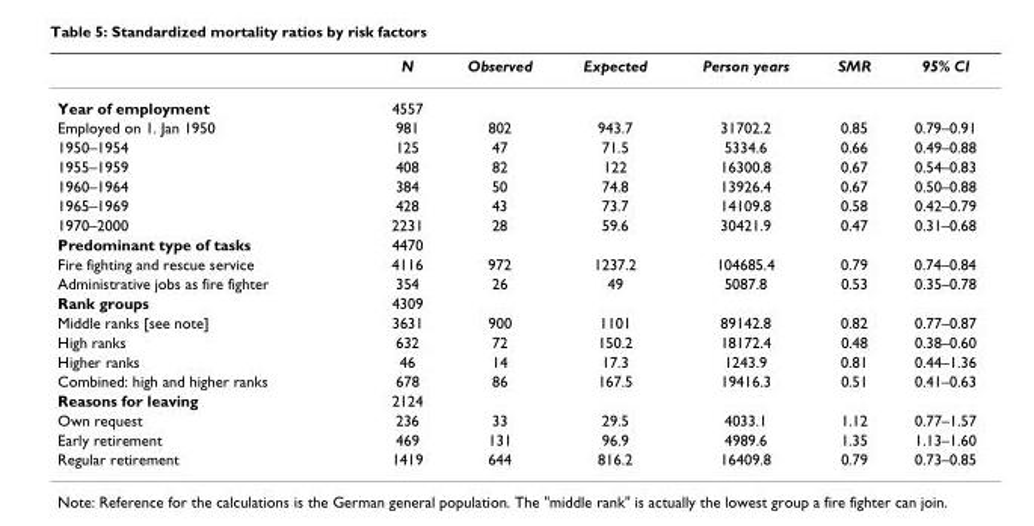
<table><thead><tr><td></td><td>N</td><td>Observed</td><td>Expected</td><td>Person years</td><td>SMR</td><td>95% CI</td></tr></thead><tbody><tr><td>Year of employment</td><td>4557</td><td></td><td></td><td></td><td></td><td></td></tr><tr><td>Employed on 1. Jan 1950</td><td>981</td><td>802</td><td>943.7</td><td>31702.2</td><td>0.85</td><td>0.79–0.91</td></tr><tr><td>1950–1954</td><td>125</td><td>47</td><td>71.5</td><td>5334.6</td><td>0.66</td><td>0.49–0.88</td></tr><tr><td>1955–1959</td><td>408</td><td>82</td><td>122</td><td>16300.8</td><td>0.67</td><td>0.54–0.83</td></tr><tr><td>1960–1964</td><td>384</td><td>50</td><td>74.8</td><td>13926.4</td><td>0.67</td><td>0.50–0.88</td></tr><tr><td>1965–1969</td><td>428</td><td>43</td><td>73.7</td><td>14109.8</td><td>0.58</td><td>0.42–0.79</td></tr><tr><td>1970–2000</td><td>2231</td><td>28</td><td>59.6</td><td>30421.9</td><td>0.47</td><td>0.31–0.68</td></tr><tr><td>Predominant type of tasks</td><td>4470</td><td></td><td></td><td></td><td></td><td></td></tr><tr><td>Fire fighting and rescue service</td><td>4116</td><td>972</td><td>1237.2</td><td>104685.4</td><td>0.79</td><td>0.74–0.84</td></tr><tr><td>Administrative jobs as fire fighter</td><td>354</td><td>26</td><td>49</td><td>5087.8</td><td>0.53</td><td>0.35–0.78</td></tr><tr><td>Rank groups</td><td>4309</td><td></td><td></td><td></td><td></td><td></td></tr><tr><td>Middle ranks [see note]</td><td>3631</td><td>900</td><td>1101</td><td>89142.8</td><td>0.82</td><td>0.77–0.87</td></tr><tr><td>High ranks</td><td>632</td><td>72</td><td>150.2</td><td>18172.4</td><td>0.48</td><td>0.38–0.60</td></tr><tr><td>Higher ranks</td><td>46</td><td>14</td><td>17.3</td><td>1243.9</td><td>0.81</td><td>0.44–1.36</td></tr><tr><td>Combined: high and higher ranks</td><td>678</td><td>86</td><td>167.5</td><td>19416.3</td><td>0.51</td><td>0.41–0.63</td></tr><tr><td>Reasons for leaving</td><td>2124</td><td></td><td></td><td></td><td></td><td></td></tr><tr><td>Own request</td><td>236</td><td>33</td><td>29.5</td><td>4033.1</td><td>1.12</td><td>0.77–1.57</td></tr><tr><td>Early retirement</td><td>469</td><td>131</td><td>96.9</td><td>4989.6</td><td>1.35</td><td>1.13–1.60</td></tr><tr><td>Regular retirement</td><td>1419</td><td>644</td><td>816.2</td><td>16409.8</td><td>0.79</td><td>0.73–0.85</td></tr></tbody></table>